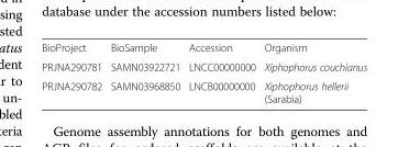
<table><tbody><tr><td>BioProject</td><td>BioSample</td><td>Accession</td><td>Organism</td></tr><tr><td>PRJNA290781</td><td>SAMN03922721</td><td>LNCC00000000</td><td>Xiphophorus couchianus</td></tr><tr><td>PRJNA290782</td><td>SAMN03968850</td><td>LNCB00000000</td><td>Xiphophorus hellerii (Sarabia)</td></tr></tbody></table>